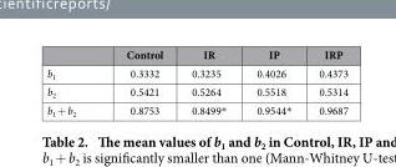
<table><thead><tr><td></td><td>Control</td><td>IR</td><td>IP</td><td>IRP</td></tr></thead><tbody><tr><td>b<sub>1</sub></td><td>0.3332</td><td>0.3235</td><td>0.4026</td><td>0.4373</td></tr><tr><td>b<sub>2</sub></td><td>0.5421</td><td>0.5264</td><td>0.5518</td><td>0.5314</td></tr><tr><td>b<sub>1</sub> + b<sub>2</sub></td><td>0.8753</td><td>0.8499*</td><td>0.9544*</td><td>0.9687</td></tr></tbody></table>